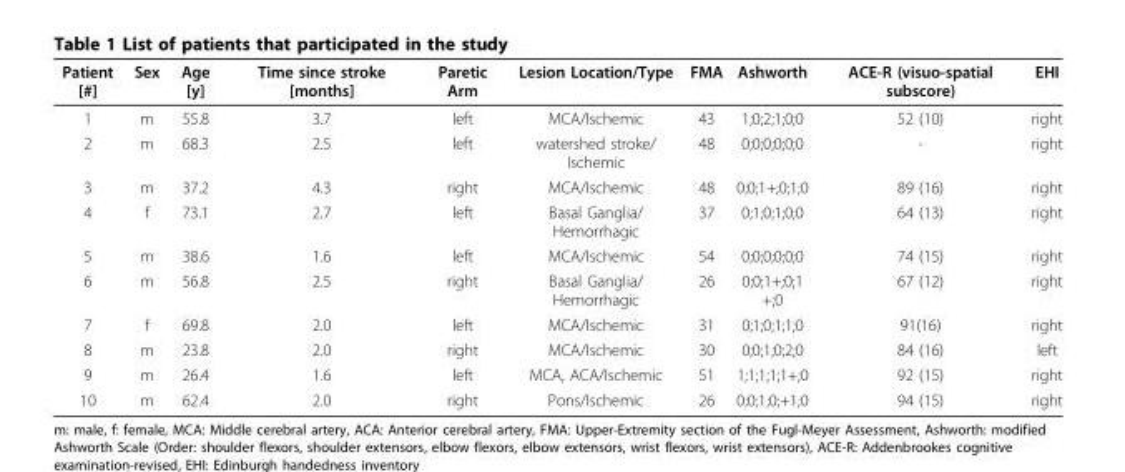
<table><thead><tr><td>Patient [#]</td><td>Sex</td><td>Age [y]</td><td>Time since stroke [months]</td><td>Paretic Arm</td><td>Lesion Location/Type</td><td>FMA</td><td>Ashworth</td><td>ACE-R (visuo-spatial subscore)</td><td>EHI</td></tr></thead><tbody><tr><td>1</td><td>m</td><td>55.8</td><td>3.7</td><td>left</td><td>MCA/Ischemic</td><td>43</td><td>1;0;2;1;0;0</td><td>52 (10)</td><td>right</td></tr><tr><td>2</td><td>m</td><td>68.3</td><td>2.5</td><td>left</td><td>watershed stroke/ Ischemic</td><td>48</td><td>0;0;0;0;0;0</td><td>-</td><td>right</td></tr><tr><td>3</td><td>m</td><td>37.2</td><td>4.3</td><td>right</td><td>MCA/Ischemic</td><td>48</td><td>0;0;1+;0;1;0</td><td>89 (16)</td><td>right</td></tr><tr><td>4</td><td>f</td><td>73.1</td><td>2.7</td><td>left</td><td>Basal Ganglia/ Hemorrhagic</td><td>37</td><td>0;1;0;1;0;0</td><td>64 (13)</td><td>right</td></tr><tr><td>5</td><td>m</td><td>38.6</td><td>1.6</td><td>left</td><td>MCA/Ischemic</td><td>54</td><td>0;0;0;0;0;0</td><td>74 (15)</td><td>right</td></tr><tr><td>6</td><td>m</td><td>56.8</td><td>2.5</td><td>right</td><td>Basal Ganglia/ Hemorrhagic</td><td>26</td><td>0;0;1+;0;1 +;0</td><td>67 (12)</td><td>right</td></tr><tr><td>7</td><td>f</td><td>69.8</td><td>2.0</td><td>left</td><td>MCA/Ischemic</td><td>31</td><td>0;1;0;1;1;0</td><td>91(16)</td><td>right</td></tr><tr><td>8</td><td>m</td><td>23.8</td><td>2.0</td><td>right</td><td>MCA/Ischemic</td><td>30</td><td>0;0;1;0;2;0</td><td>84 (16)</td><td>left</td></tr><tr><td>9</td><td>m</td><td>26.4</td><td>1.6</td><td>left</td><td>MCA, ACA/Ischemic</td><td>51</td><td>1;1;1;1;1+;0</td><td>92 (15)</td><td>right</td></tr><tr><td>10</td><td>m</td><td>62.4</td><td>2.0</td><td>right</td><td>Pons/Ischemic</td><td>26</td><td>0;0;1;0;+1;0</td><td>94 (15)</td><td>right</td></tr></tbody></table>